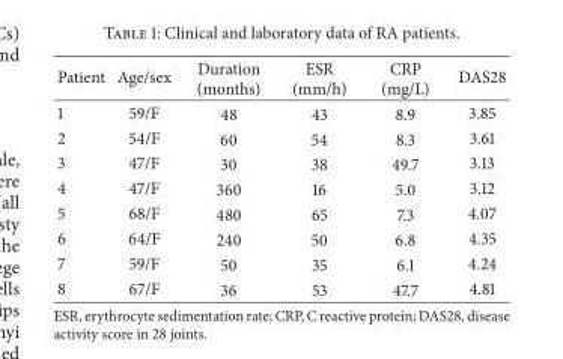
<table><thead><tr><td>Patient</td><td>Age/sex</td><td>Duration (months)</td><td>ESR (mm/h)</td><td>CRP (mg/L)</td><td>DAS28</td></tr></thead><tbody><tr><td>1</td><td>59/F</td><td>48</td><td>43</td><td>8.9</td><td>3.85</td></tr><tr><td>2</td><td>54/F</td><td>60</td><td>54</td><td>8.3</td><td>3.61</td></tr><tr><td>3</td><td>47/F</td><td>30</td><td>38</td><td>49.7</td><td>3.13</td></tr><tr><td>4</td><td>47/F</td><td>360</td><td>16</td><td>5.0</td><td>3.12</td></tr><tr><td>5</td><td>68/F</td><td>480</td><td>65</td><td>7.3</td><td>4.07</td></tr><tr><td>6</td><td>64/F</td><td>240</td><td>50</td><td>6.8</td><td>4.35</td></tr><tr><td>7</td><td>59/F</td><td>50</td><td>35</td><td>6.1</td><td>4.24</td></tr><tr><td>8</td><td>67/F</td><td>36</td><td>53</td><td>47.7</td><td>4.81</td></tr></tbody></table>